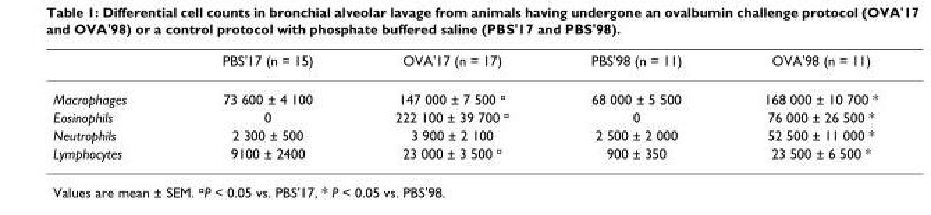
<table><thead><tr><td></td><td>PBS&#x27;17 (n = 15)</td><td>OVA&#x27;17 (n = 17)</td><td>PBS&#x27;98 (n = 11)</td><td>OVA&#x27;98 (n = 11)</td></tr></thead><tbody><tr><td>Macrophages</td><td>73 600 ± 4 100</td><td>147 000 ± 7 500 <sup>¤</sup></td><td>68 000 ± 5 500</td><td>168 000 ± 10 700 *</td></tr><tr><td>Eosinophils</td><td>0</td><td>222 100 ± 39 700 <sup>¤</sup></td><td>0</td><td>76 000 ± 26 500 *</td></tr><tr><td>Neutrophils</td><td>2 300 ± 500</td><td>3 900 ± 2 100</td><td>2 500 ± 2 000</td><td>52 500 ± 11 000 *</td></tr><tr><td>Lymphocytes</td><td>9100 ± 2400</td><td>23 000 ± 3 500 <sup>¤</sup></td><td>900 ± 350</td><td>23 500 ± 6 500 *</td></tr></tbody></table>